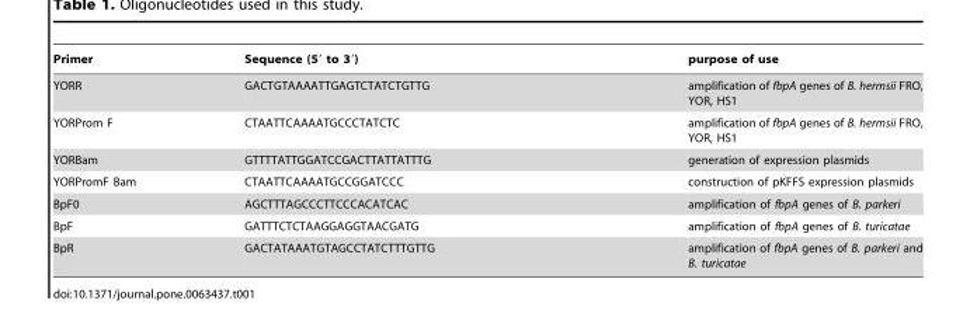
<table><thead><tr><td>Primer</td><td>Sequence (5′ to 3′)</td><td>purpose of use</td></tr></thead><tbody><tr><td>YORR</td><td>GACTGTAAAATTGAGTCTATCTGTTG</td><td>amplification of fbpA genes of B. hermsii FRO, YOR, HS1</td></tr><tr><td>YORProm F</td><td>CTAATTCAAAATGCCCTATCTC</td><td>amplification of fbpA genes of B. hermsii FRO, YOR, HS1</td></tr><tr><td>YORBam</td><td>GTTTTATTGGATCCGACTTATTATTTG</td><td>generation of expression plasmids</td></tr><tr><td>YORPromF Bam</td><td>CTAATTCAAAATGCCGGATCCC</td><td>construction of pKFFS expression plasmids</td></tr><tr><td>BpF0</td><td>AGCTTTAGCCCTTCCCACATCAC</td><td>amplification of fbpA genes of B. parkeri</td></tr><tr><td>BpF</td><td>GATTTCTCTAAGGAGGTAACGATG</td><td>amplification of fbpA genes of B. turicatae</td></tr><tr><td>BpR</td><td>GACTATAAATGTAGCCTATCTTTGTTG</td><td>amplification of fbpA genes of B. parkeri and B. turicatae</td></tr></tbody></table>